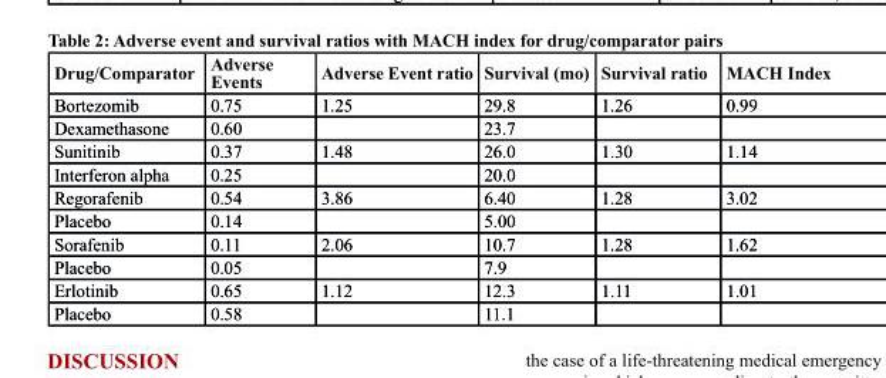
<table><thead><tr><td>drug/comparator</td><td>Adverse events</td><td>Adverse event ratio</td><td>survival (mo)</td><td>survival ratio</td><td>MAch Index</td></tr></thead><tbody><tr><td>Bortezomib</td><td>0.75</td><td>1.25</td><td>29.8</td><td>1.26</td><td>0.99</td></tr><tr><td>Dexamethasone</td><td>0.60</td><td></td><td>23.7</td><td></td><td></td></tr><tr><td>Sunitinib</td><td>0.37</td><td>1.48</td><td>26.0</td><td>1.30</td><td>1.14</td></tr><tr><td>Interferon alpha</td><td>0.25</td><td></td><td>20.0</td><td></td><td></td></tr><tr><td>Regorafenib</td><td>0.54</td><td>3.86</td><td>6.40</td><td>1.28</td><td>3.02</td></tr><tr><td>Placebo</td><td>0.14</td><td></td><td>5.00</td><td></td><td></td></tr><tr><td>Sorafenib</td><td>0.11</td><td>2.06</td><td>10.7</td><td>1.28</td><td>1.62</td></tr><tr><td>Placebo</td><td>0.05</td><td></td><td>7.9</td><td></td><td></td></tr><tr><td>Erlotinib</td><td>0.65</td><td>1.12</td><td>12.3</td><td>1.11</td><td>1.01</td></tr><tr><td>Placebo</td><td>0.58</td><td></td><td>11.1</td><td></td><td></td></tr></tbody></table>